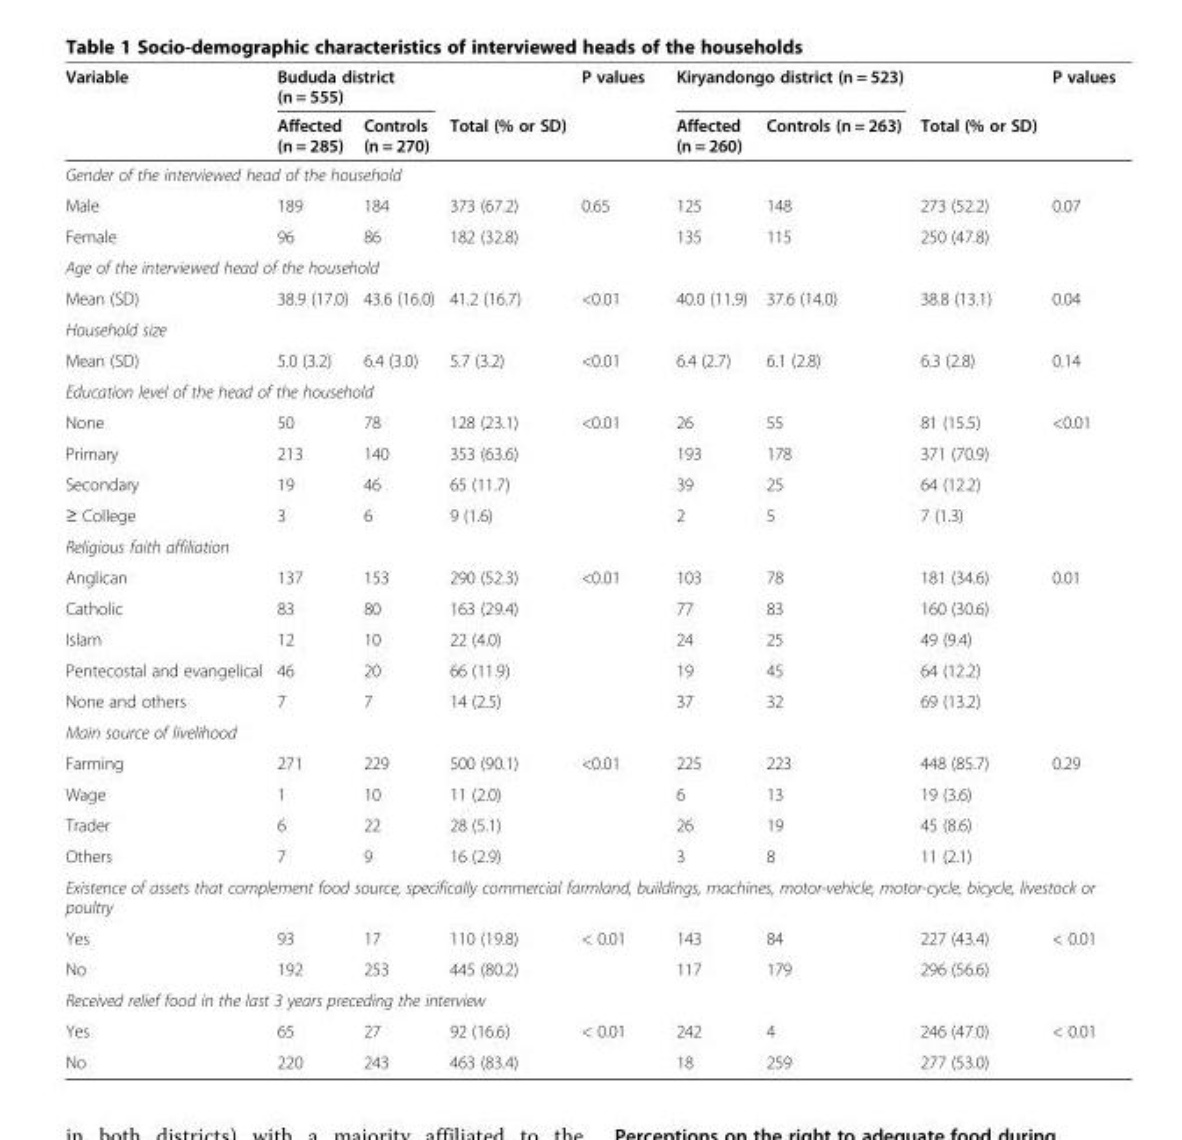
<table><thead><tr><td rowspan="2">Variable</td><td colspan="2">Bududa district (n = 555)</td><td rowspan="2">Total (% or SD)</td><td rowspan="2">P values</td><td colspan="2">Kiryandongo district (n = 523)</td><td rowspan="2">Total (% or SD)</td><td rowspan="2">P values</td></tr><tr><td>Affected (n = 285)</td><td>Controls (n = 270)</td><td>Affected (n = 260)</td><td>Controls (n = 263)</td></tr></thead><tbody><tr><td colspan="9">Gender of the interviewed head of the household</td></tr><tr><td>Male</td><td>189</td><td>184</td><td>373 (67.2)</td><td rowspan="2">0.65</td><td>125</td><td>148</td><td>273 (52.2)</td><td rowspan="2">0.07</td></tr><tr><td>Female</td><td>96</td><td>86</td><td>182 (32.8)</td><td>135</td><td>115</td><td>250 (47.8)</td></tr><tr><td colspan="9">Age of the interviewed head of the household</td></tr><tr><td>Mean (SD)</td><td>38.9 (17.0)</td><td>43.6 (16.0)</td><td>41.2 (16.7)</td><td>&lt;0.01</td><td>40.0 (11.9)</td><td>37.6 (14.0)</td><td>38.8 (13.1)</td><td>0.04</td></tr><tr><td colspan="9">Household size</td></tr><tr><td>Mean (SD)</td><td>5.0 (3.2)</td><td>6.4 (3.0)</td><td>5.7 (3.2)</td><td>&lt;0.01</td><td>6.4 (2.7)</td><td>6.1 (2.8)</td><td>6.3 (2.8)</td><td>0.14</td></tr><tr><td colspan="9">Education level of the head of the household</td></tr><tr><td>None</td><td>50</td><td>78</td><td>128 (23.1)</td><td rowspan="4">&lt;0.01</td><td>26</td><td>55</td><td>81 (15.5)</td><td rowspan="4">&lt;0.01</td></tr><tr><td>Primary</td><td>213</td><td>140</td><td>353 (63.6)</td><td>193</td><td>178</td><td>371 (70.9)</td></tr><tr><td>Secondary</td><td>19</td><td>46</td><td>65 (11.7)</td><td>39</td><td>25</td><td>64 (12.2)</td></tr><tr><td>≥ College</td><td>3</td><td>6</td><td>9 (1.6)</td><td>2</td><td>5</td><td>7 (1.3)</td></tr><tr><td colspan="9">Religious faith affiliation</td></tr><tr><td>Anglican</td><td>137</td><td>153</td><td>290 (52.3)</td><td rowspan="4">&lt;0.01</td><td>103</td><td>78</td><td>181 (34.6)</td><td rowspan="4">0.01</td></tr><tr><td>Catholic</td><td>83</td><td>80</td><td>163 (29.4)</td><td>77</td><td>83</td><td>160 (30.6)</td></tr><tr><td>Islam</td><td>12</td><td>10</td><td>22 (4.0)</td><td>24</td><td>25</td><td>49 (9.4)</td></tr><tr><td>Pentecostal and evangelical</td><td>46</td><td>20</td><td>66 (11.9)</td><td>19</td><td>45</td><td>64 (12.2)</td></tr><tr><td>None and others</td><td>7</td><td>7</td><td>14 (2.5)</td><td></td><td>37</td><td>32</td><td>69 (13.2)</td><td></td></tr><tr><td colspan="9">Main source of livelihood</td></tr><tr><td>Farming</td><td>271</td><td>229</td><td>500 (90.1)</td><td rowspan="4">&lt;0.01</td><td>225</td><td>223</td><td>448 (85.7)</td><td rowspan="4">0.29</td></tr><tr><td>Wage</td><td>1</td><td>10</td><td>11 (2.0)</td><td>6</td><td>13</td><td>19 (3.6)</td></tr><tr><td>Trader</td><td>6</td><td>22</td><td>28 (5.1)</td><td>26</td><td>19</td><td>45 (8.6)</td></tr><tr><td>Others</td><td>7</td><td>9</td><td>16 (2.9)</td><td>3</td><td>8</td><td>11 (2.1)</td></tr><tr><td colspan="9">Existence of assets that complement food source, specifically commercial farmland, buildings, machines, motor-vehicle, motor-cycle, bicycle, livestock or poultry</td></tr><tr><td>Yes</td><td>93</td><td>17</td><td>110 (19.8)</td><td rowspan="2">&lt; 0.01</td><td>143</td><td>84</td><td>227 (43.4)</td><td rowspan="2">&lt; 0.01</td></tr><tr><td>No</td><td>192</td><td>253</td><td>445 (80.2)</td><td>117</td><td>179</td><td>296 (56.6)</td></tr><tr><td colspan="9">Received relief food in the last 3 years preceding the interview</td></tr><tr><td>Yes</td><td>65</td><td>27</td><td>92 (16.6)</td><td rowspan="2">&lt; 0.01</td><td>242</td><td>4</td><td>246 (47.0)</td><td rowspan="2">&lt; 0.01</td></tr><tr><td>No</td><td>220</td><td>243</td><td>463 (83.4)</td><td>18</td><td>259</td><td>277 (53.0)</td></tr></tbody></table>